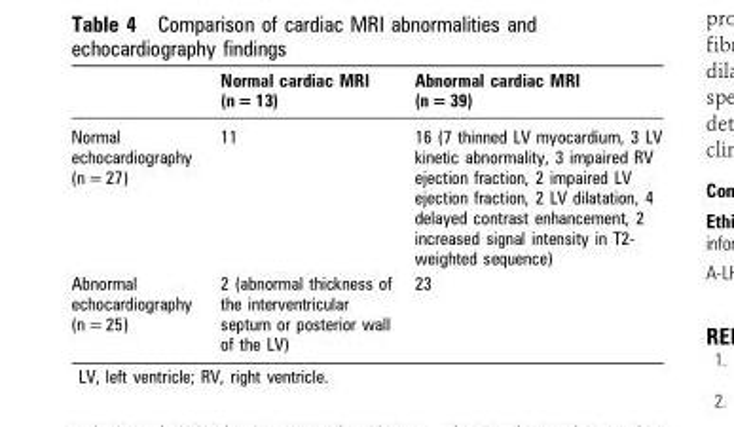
<table><thead><tr><td></td><td>Normal cardiac MRI (n = 13)</td><td>Abnormal cardiac MRI (n = 39)</td></tr></thead><tbody><tr><td>Normal echocardiography (n = 27)</td><td>11</td><td>16 (7 thinned LV myocardium, 3 LV kinetic abnormality, 3 impaired RV ejection fraction, 2 impaired LV ejection fraction, 2 LV dilatation, 4 delayed contrast enhancement, 2 increased signal intensity in T2- weighted sequence)</td></tr><tr><td>Abnormal echocardiography (n = 25)</td><td>2 (abnormal thickness of the interventricular septum or posterior wall of the LV)</td><td>23</td></tr></tbody></table>